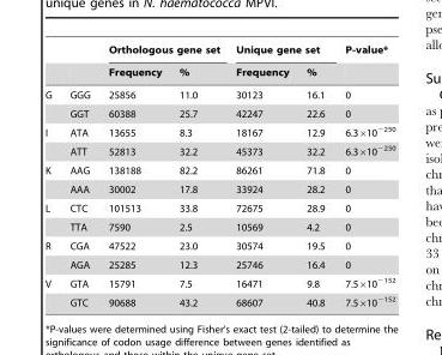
<table><thead><tr><td rowspan="2"></td><td rowspan="2"></td><td colspan="2">Orthologous gene set</td><td colspan="2">Unique gene set</td><td rowspan="2">P-value*</td></tr><tr><td>Frequency</td><td>%</td><td>Frequency</td><td>%</td></tr></thead><tbody><tr><td rowspan="2">G</td><td>GGG</td><td>25856</td><td>11.0</td><td>30123</td><td>16.1</td><td>0</td></tr><tr><td>GGT</td><td>60388</td><td>25.7</td><td>42247</td><td>22.6</td><td>0</td></tr><tr><td rowspan="2">I</td><td>ATA</td><td>13655</td><td>8.3</td><td>18167</td><td>12.9</td><td>6.3×10<sup>−250</sup></td></tr><tr><td>ATT</td><td>52813</td><td>32.2</td><td>45373</td><td>32.2</td><td>6.3×10<sup>−250</sup></td></tr><tr><td rowspan="2">K</td><td>AAG</td><td>138188</td><td>82.2</td><td>86261</td><td>71.8</td><td>0</td></tr><tr><td>AAA</td><td>30002</td><td>17.8</td><td>33924</td><td>28.2</td><td>0</td></tr><tr><td rowspan="2">L</td><td>CTC</td><td>101513</td><td>33.8</td><td>72675</td><td>28.9</td><td>0</td></tr><tr><td>TTA</td><td>7590</td><td>2.5</td><td>10569</td><td>4.2</td><td>0</td></tr><tr><td rowspan="2">R</td><td>CGA</td><td>47522</td><td>23.0</td><td>30574</td><td>19.5</td><td>0</td></tr><tr><td>AGA</td><td>25285</td><td>12.3</td><td>25746</td><td>16.4</td><td>0</td></tr><tr><td rowspan="2">V</td><td>GTA</td><td>15791</td><td>7.5</td><td>16471</td><td>9.8</td><td>7.5×10<sup>−152</sup></td></tr><tr><td>GTC</td><td>90688</td><td>43.2</td><td>68607</td><td>40.8</td><td>7.5×10<sup>−152</sup></td></tr></tbody></table>